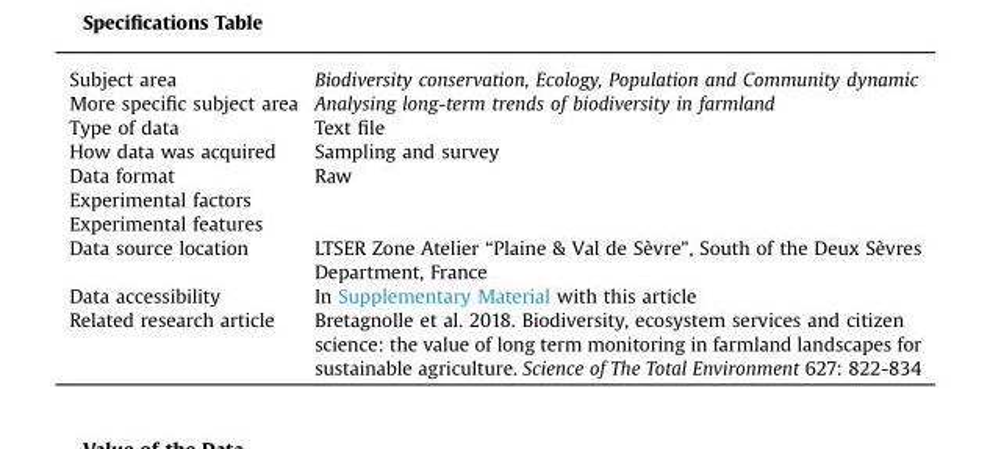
<table><tbody><tr><td>Subject area</td><td>Biodiversity conservation, Ecology, Population and Community dynamic</td></tr><tr><td>More specific subject area</td><td>Analysing long-term trends of biodiversity in farmland</td></tr><tr><td>Type of data</td><td>Text file</td></tr><tr><td>How data was acquired</td><td>Sampling and survey</td></tr><tr><td>Data format</td><td>Raw</td></tr><tr><td colspan="2">Experimental factors</td></tr><tr><td colspan="2">Experimental features</td></tr><tr><td>Data source location</td><td>LTSER Zone Atelier “Plaine &amp; Val de Sèvre”, South of the Deux Sèvres Department, France</td></tr><tr><td>Data accessibility</td><td>In Supplementary Material with this article</td></tr><tr><td>Related research article</td><td>Bretagnolle et al. 2018. Biodiversity, ecosystem services and citizen science: the value of long term monitoring in farmland landscapes for sustainable agriculture. Science of The Total Environment 627: 822-834</td></tr></tbody></table>